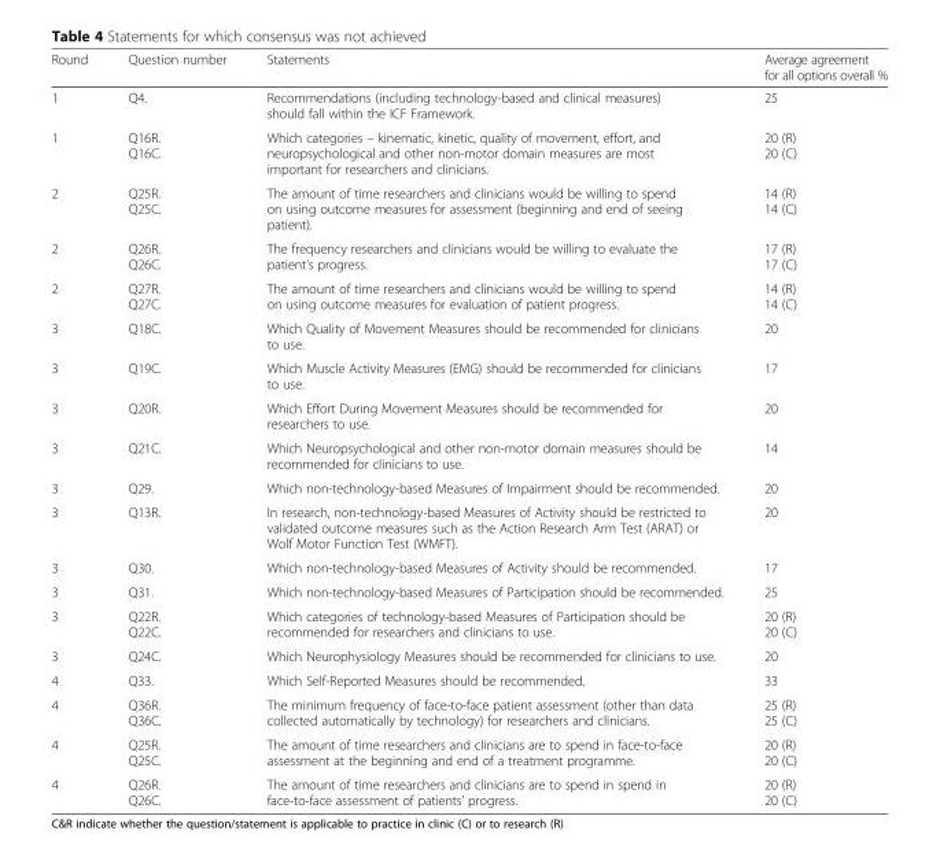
<table><thead><tr><td>Round</td><td>Question number</td><td>Statements</td><td>Average agreement for all options overall %</td></tr></thead><tbody><tr><td>1</td><td>Q4.</td><td>Recommendations (including technology-based and clinical measures) should fall within the ICF Framework.</td><td>25</td></tr><tr><td>1</td><td>Q16R. Q16C.</td><td>Which categories – kinematic, kinetic, quality of movement, effort, and neuropsychological and other non-motor domain measures are most important for researchers and clinicians.</td><td>20 (R) 20 (C)</td></tr><tr><td>2</td><td>Q25R. Q25C.</td><td>The amount of time researchers and clinicians would be willing to spend on using outcome measures for assessment (beginning and end of seeing patient).</td><td>14 (R) 14 (C)</td></tr><tr><td>2</td><td>Q26R. Q26C.</td><td>The frequency researchers and clinicians would be willing to evaluate the patient’s progress.</td><td>17 (R) 17 (C)</td></tr><tr><td>2</td><td>Q27R. Q27C.</td><td>The amount of time researchers and clinicians would be willing to spend on using outcome measures for evaluation of patient progress.</td><td>14 (R) 14 (C)</td></tr><tr><td>3</td><td>Q18C.</td><td>Which Quality of Movement Measures should be recommended for clinicians to use.</td><td>20</td></tr><tr><td>3</td><td>Q19C.</td><td>Which Muscle Activity Measures (EMG) should be recommended for clinicians to use.</td><td>17</td></tr><tr><td>3</td><td>Q20R.</td><td>Which Effort During Movement Measures should be recommended for researchers to use.</td><td>20</td></tr><tr><td>3</td><td>Q21C.</td><td>Which Neuropsychological and other non-motor domain measures should be recommended for clinicians to use.</td><td>14</td></tr><tr><td>3</td><td>Q29.</td><td>Which non-technology-based Measures of Impairment should be recommended.</td><td>20</td></tr><tr><td>3</td><td>Q13R.</td><td>In research, non-technology-based Measures of Activity should be restricted to validated outcome measures such as the Action Research Arm Test (ARAT) or Wolf Motor Function Test (WMFT).</td><td>20</td></tr><tr><td>3</td><td>Q30.</td><td>Which non-technology-based Measures of Activity should be recommended.</td><td>17</td></tr><tr><td>3</td><td>Q31.</td><td>Which non-technology-based Measures of Participation should be recommended.</td><td>25</td></tr><tr><td>3</td><td>Q22R. Q22C.</td><td>Which categories of technology-based Measures of Participation should be recommended for researchers and clinicians to use.</td><td>20 (R) 20 (C)</td></tr><tr><td>3</td><td>Q24C.</td><td>Which Neurophysiology Measures should be recommended for clinicians to use.</td><td>20</td></tr><tr><td>4</td><td>Q33.</td><td>Which Self-Reported Measures should be recommended.</td><td>33</td></tr><tr><td>4</td><td>Q36R. Q36C.</td><td>The minimum frequency of face-to-face patient assessment (other than data collected automatically by technology) for researchers and clinicians.</td><td>25 (R) 25 (C)</td></tr><tr><td>4</td><td>Q25R. Q25C.</td><td>The amount of time researchers and clinicians are to spend in face-to-face assessment at the beginning and end of a treatment programme.</td><td>20 (R) 20 (C)</td></tr><tr><td>4</td><td>Q26R. Q26C.</td><td>The amount of time researchers and clinicians are to spend in spend in face-to-face assessment of patients’ progress.</td><td>20 (R) 20 (C)</td></tr></tbody></table>